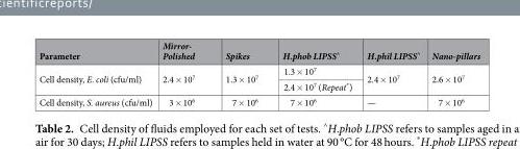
<table><thead><tr><td>Parameter</td><td>Mirror- Polished</td><td>Spikes</td><td>H.phob LIPSS<sup>^</sup></td><td>H.phil LIPSS<sup>^</sup></td><td>Nano-pillars</td></tr></thead><tbody><tr><td rowspan="2">Cell density, E. coli (cfu/ml)</td><td rowspan="2">2.4 × 10<sup>7</sup></td><td rowspan="2">1.3 × 10<sup>7</sup></td><td>1.3 × 10<sup>7</sup></td><td rowspan="2">2.4 × 10<sup>7</sup></td><td rowspan="2">2.6 × 10<sup>7</sup></td></tr><tr><td>2.4 × 10<sup>7</sup> (Repeat*)</td></tr><tr><td>Cell density, S. aureus (cfu/ml)</td><td>3 × 10<sup>6</sup></td><td>7 × 10<sup>6</sup></td><td>7 × 10<sup>6</sup></td><td>—</td><td>7 × 10<sup>6</sup></td></tr></tbody></table>